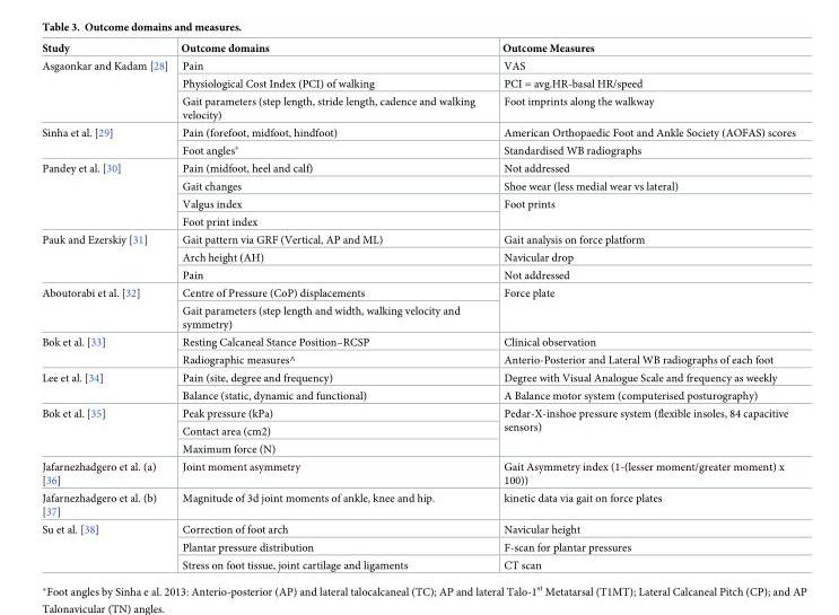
<table><thead><tr><td>Study</td><td>Outcome domains</td><td>Outcome Measures</td></tr></thead><tbody><tr><td rowspan="3">Asgaonkar and Kadam [28]</td><td>Pain</td><td>VAS</td></tr><tr><td>Physiological Cost Index (PCI) of walking</td><td>PCI = avg.HR-basal HR/speed</td></tr><tr><td>Gait parameters (step length, stride length, cadence and walking velocity)</td><td>Foot imprints along the walkway</td></tr><tr><td rowspan="2">Sinha et al. [29]</td><td>Pain (forefoot, midfoot, hindfoot)</td><td>American Orthopaedic Foot and Ankle Society (AOFAS) scores</td></tr><tr><td>Foot angles*</td><td>Standardised WB radiographs</td></tr><tr><td rowspan="4">Pandey et al. [30]</td><td>Pain (midfoot, heel and calf)</td><td>Not addressed</td></tr><tr><td>Gait changes</td><td>Shoe wear (less medial wear vs lateral)</td></tr><tr><td>Valgus index</td><td rowspan="2">Foot prints</td></tr><tr><td>Foot print index</td></tr><tr><td rowspan="3">Pauk and Ezerskiy [31]</td><td>Gait pattern via GRF (Vertical, AP and ML)</td><td>Gait analysis on force platform</td></tr><tr><td>Arch height (AH)</td><td>Navicular drop</td></tr><tr><td>Pain</td><td>Not addressed</td></tr><tr><td rowspan="2">Aboutorabi et al. [32]</td><td>Centre of Pressure (CoP) displacements</td><td rowspan="2">Force plate</td></tr><tr><td>Gait parameters (step length and width, walking velocity and symmetry)</td></tr><tr><td rowspan="2">Bok et al. [33]</td><td>Resting Calcaneal Stance Position–RCSP</td><td>Clinical observation</td></tr><tr><td>Radiographic measures^</td><td>Anterio-Posterior and Lateral WB radiographs of each foot</td></tr><tr><td rowspan="2">Lee et al. [34]</td><td>Pain (site, degree and frequency)</td><td>Degree with Visual Analogue Scale and frequency as weekly</td></tr><tr><td>Balance (static, dynamic and functional)</td><td>A Balance motor system (computerised posturography)</td></tr><tr><td rowspan="3">Bok et al. [35]</td><td>Peak pressure (kPa)</td><td rowspan="3">Pedar-X-inshoe pressure system (flexible insoles, 84 capacitive sensors)</td></tr><tr><td>Contact area (cm2)</td></tr><tr><td>Maximum force (N)</td></tr><tr><td>Jafarnezhadgero et al. (a) [36]</td><td>Joint moment asymmetry</td><td>Gait Asymmetry index (1-(lesser moment/greater moment) x 100))</td></tr><tr><td>Jafarnezhadgero et al. (b) [37]</td><td>Magnitude of 3d joint moments of ankle, knee and hip.</td><td>kinetic data via gait on force plates</td></tr><tr><td rowspan="3">Su et al. [38]</td><td>Correction of foot arch</td><td>Navicular height</td></tr><tr><td>Plantar pressure distribution</td><td>F-scan for plantar pressures</td></tr><tr><td>Stress on foot tissue, joint cartilage and ligaments</td><td>CT scan</td></tr></tbody></table>